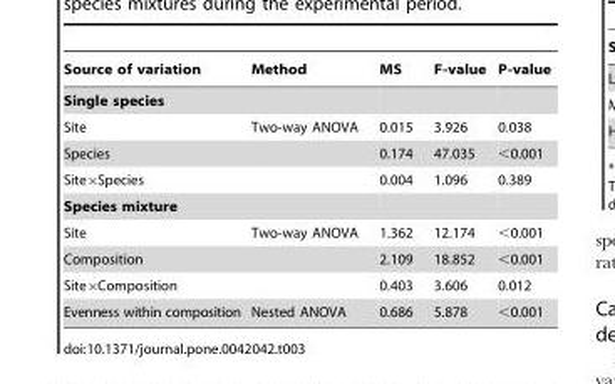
<table><thead><tr><td>Source of variation</td><td>Method</td><td>MS</td><td>F-value</td><td>P-value</td></tr></thead><tbody><tr><td colspan="5">Single species</td></tr><tr><td>Site</td><td>Two-way ANOVA</td><td>0.015</td><td>3.926</td><td>0.038</td></tr><tr><td>Species</td><td></td><td>0.174</td><td>47.035</td><td>&lt;0.001</td></tr><tr><td>Site×Species</td><td></td><td>0.004</td><td>1.096</td><td>0.389</td></tr><tr><td colspan="5">Species mixture</td></tr><tr><td>Site</td><td>Two-way ANOVA</td><td>1.362</td><td>12.174</td><td>&lt;0.001</td></tr><tr><td>Composition</td><td></td><td>2.109</td><td>18.852</td><td>&lt;0.001</td></tr><tr><td>Site×Composition</td><td></td><td>0.403</td><td>3.606</td><td>0.012</td></tr><tr><td>Evenness within composition</td><td>Nested ANOVA</td><td>0.686</td><td>5.878</td><td>&lt;0.001</td></tr></tbody></table>